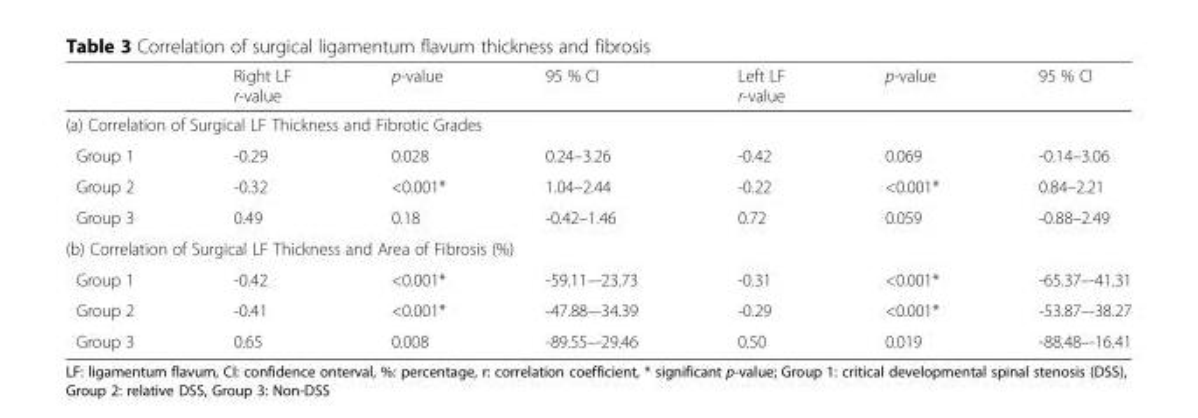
<table><thead><tr><td></td><td>Right LF r-value</td><td>p-value</td><td>95 % CI</td><td>Left LF r-value</td><td>p-value</td><td>95 % CI</td></tr></thead><tbody><tr><td colspan="7">(a) Correlation of Surgical LF Thickness and Fibrotic Grades</td></tr><tr><td>Group 1</td><td>-0.29</td><td>0.028</td><td>0.24–3.26</td><td>-0.42</td><td>0.069</td><td>-0.14–3.06</td></tr><tr><td>Group 2</td><td>-0.32</td><td>&lt;0.001*</td><td>1.04–2.44</td><td>-0.22</td><td>&lt;0.001*</td><td>0.84–2.21</td></tr><tr><td>Group 3</td><td>0.49</td><td>0.18</td><td>-0.42–1.46</td><td>0.72</td><td>0.059</td><td>-0.88–2.49</td></tr><tr><td colspan="7">(b) Correlation of Surgical LF Thickness and Area of Fibrosis (%)</td></tr><tr><td>Group 1</td><td>-0.42</td><td>&lt;0.001*</td><td>-59.11–-23.73</td><td>-0.31</td><td>&lt;0.001*</td><td>-65.37–-41.31</td></tr><tr><td>Group 2</td><td>-0.41</td><td>&lt;0.001*</td><td>-47.88–-34.39</td><td>-0.29</td><td>&lt;0.001*</td><td>-53.87–-38.27</td></tr><tr><td>Group 3</td><td>0.65</td><td>0.008</td><td>-89.55–-29.46</td><td>0.50</td><td>0.019</td><td>-88.48–-16.41</td></tr></tbody></table>